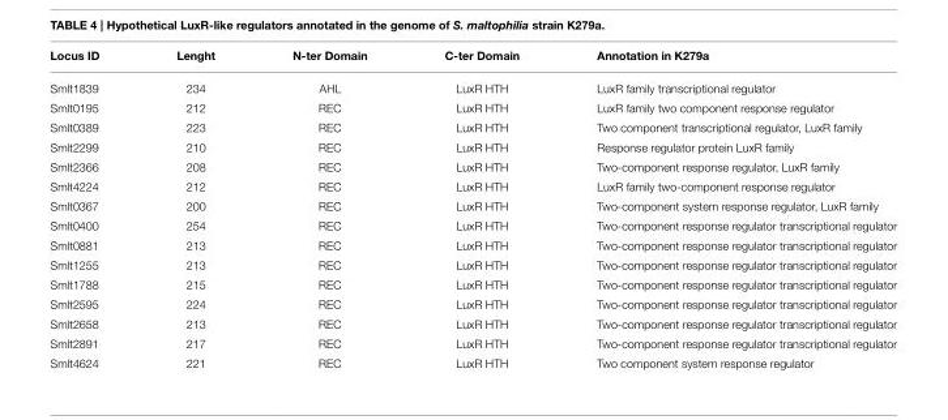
<table><thead><tr><td>Locus ID</td><td>Lenght</td><td>N-ter Domain</td><td>C-ter Domain</td><td>Annotation in K279a</td></tr></thead><tbody><tr><td>Smlt1839</td><td>234</td><td>AHL</td><td>LuxR HTH</td><td>LuxR family transcriptional regulator</td></tr><tr><td>Smlt0195</td><td>212</td><td>REC</td><td>LuxR HTH</td><td>LuxR family two component response regulator</td></tr><tr><td>Smlt0389</td><td>223</td><td>REC</td><td>LuxR HTH</td><td>Two component transcriptional regulator, LuxR family</td></tr><tr><td>Smlt2299</td><td>210</td><td>REC</td><td>LuxR HTH</td><td>Response regulator protein LuxR family</td></tr><tr><td>Smlt2366</td><td>208</td><td>REC</td><td>LuxR HTH</td><td>Two-component response regulator, LuxR family</td></tr><tr><td>Smlt4224</td><td>212</td><td>REC</td><td>LuxR HTH</td><td>LuxR family two-component response regulator</td></tr><tr><td>Smlt0367</td><td>200</td><td>REC</td><td>LuxR HTH</td><td>Two-component system response regulator, LuxR family</td></tr><tr><td>Smlt0400</td><td>254</td><td>REC</td><td>LuxR HTH</td><td>Two-component response regulator transcriptional regulator</td></tr><tr><td>Smlt0881</td><td>213</td><td>REC</td><td>LuxR HTH</td><td>Two-component response regulator transcriptional regulator</td></tr><tr><td>Smlt1255</td><td>213</td><td>REC</td><td>LuxR HTH</td><td>Two-component response regulator transcriptional regulator</td></tr><tr><td>Smlt1788</td><td>215</td><td>REC</td><td>LuxR HTH</td><td>Two-component response regulator transcriptional regulator</td></tr><tr><td>Smlt2595</td><td>224</td><td>REC</td><td>LuxR HTH</td><td>Two-component response regulator transcriptional regulator</td></tr><tr><td>Smlt2658</td><td>213</td><td>REC</td><td>LuxR HTH</td><td>Two-component response regulator transcriptional regulator</td></tr><tr><td>Smlt2891</td><td>217</td><td>REC</td><td>LuxR HTH</td><td>Two-component response regulator transcriptional regulator</td></tr><tr><td>Smlt4624</td><td>221</td><td>REC</td><td>LuxR HTH</td><td>Two component system response regulator</td></tr></tbody></table>